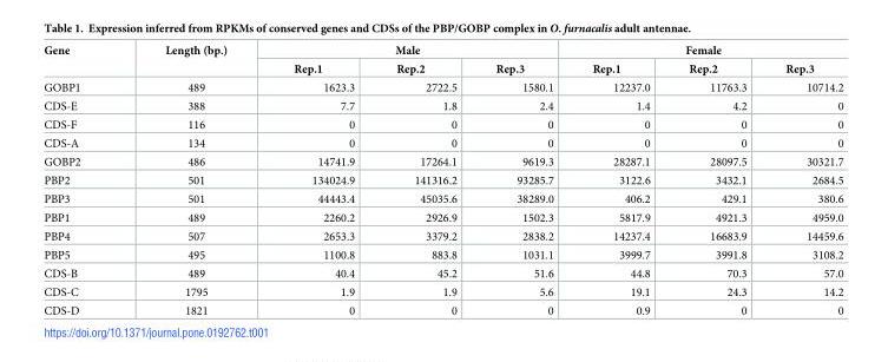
<table><thead><tr><td rowspan="2">Gene</td><td rowspan="2">Length (bp.)</td><td colspan="3">Male</td><td colspan="3">Female</td></tr><tr><td>Rep.1</td><td>Rep.2</td><td>Rep.3</td><td>Rep.1</td><td>Rep.2</td><td>Rep.3</td></tr></thead><tbody><tr><td>GOBP1</td><td>489</td><td>1623.3</td><td>2722.5</td><td>1580.1</td><td>12237.0</td><td>11763.3</td><td>10714.2</td></tr><tr><td>CDS-E</td><td>388</td><td>7.7</td><td>1.8</td><td>2.4</td><td>1.4</td><td>4.2</td><td>0</td></tr><tr><td>CDS-F</td><td>116</td><td>0</td><td>0</td><td>0</td><td>0</td><td>0</td><td>0</td></tr><tr><td>CDS-A</td><td>134</td><td>0</td><td>0</td><td>0</td><td>0</td><td>0</td><td>0</td></tr><tr><td>GOBP2</td><td>486</td><td>14741.9</td><td>17264.1</td><td>9619.3</td><td>28287.1</td><td>28097.5</td><td>30321.7</td></tr><tr><td>PBP2</td><td>501</td><td>134024.9</td><td>141316.2</td><td>93285.7</td><td>3122.6</td><td>3432.1</td><td>2684.5</td></tr><tr><td>PBP3</td><td>501</td><td>44443.4</td><td>45035.6</td><td>38289.0</td><td>406.2</td><td>429.1</td><td>380.6</td></tr><tr><td>PBP1</td><td>489</td><td>2260.2</td><td>2926.9</td><td>1502.3</td><td>5817.9</td><td>4921.3</td><td>4959.0</td></tr><tr><td>PBP4</td><td>507</td><td>2653.3</td><td>3379.2</td><td>2838.2</td><td>14237.4</td><td>16683.9</td><td>14459.6</td></tr><tr><td>PBP5</td><td>495</td><td>1100.8</td><td>883.8</td><td>1031.1</td><td>3999.7</td><td>3991.8</td><td>3108.2</td></tr><tr><td>CDS-B</td><td>489</td><td>40.4</td><td>45.2</td><td>51.6</td><td>44.8</td><td>70.3</td><td>57.0</td></tr><tr><td>CDS-C</td><td>1795</td><td>1.9</td><td>1.9</td><td>5.6</td><td>19.1</td><td>24.3</td><td>14.2</td></tr><tr><td>CDS-D</td><td>1821</td><td>0</td><td>0</td><td>0</td><td>0.9</td><td>0</td><td>0</td></tr></tbody></table>